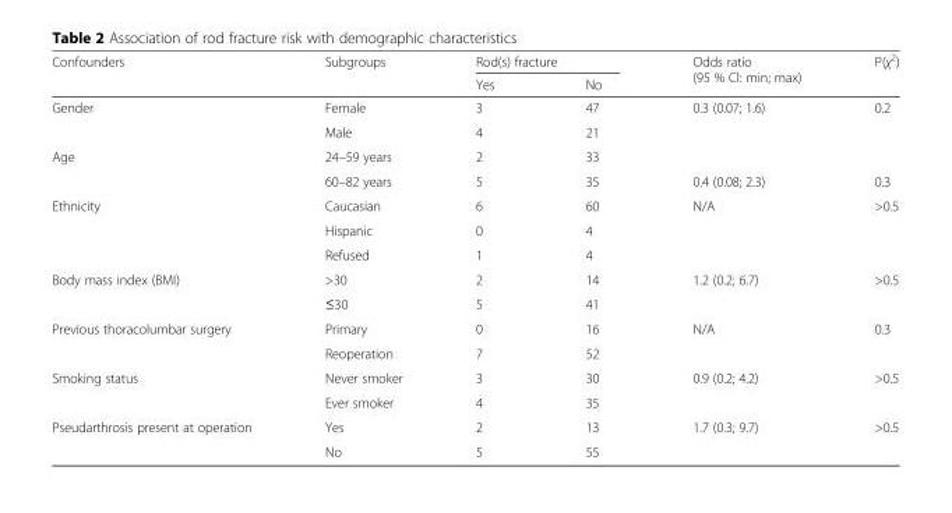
<table><thead><tr><td rowspan="2">Confounders</td><td rowspan="2">Subgroups</td><td colspan="2">Rod(s) fracture</td><td rowspan="2">Odds ratio (95 % Cl: min; max)</td><td rowspan="2">P(χ<sup>2</sup>)</td></tr><tr><td>Yes</td><td>No</td></tr></thead><tbody><tr><td rowspan="2">Gender</td><td>Female</td><td>3</td><td>47</td><td rowspan="2">0.3 (0.07; 1.6)</td><td rowspan="2">0.2</td></tr><tr><td>Male</td><td>4</td><td>21</td></tr><tr><td rowspan="2">Age</td><td>24–59 years</td><td>2</td><td>33</td><td></td><td></td></tr><tr><td>60–82 years</td><td>5</td><td>35</td><td>0.4 (0.08; 2.3)</td><td>0.3</td></tr><tr><td rowspan="3">Ethnicity</td><td>Caucasian</td><td>6</td><td>60</td><td rowspan="3">N/A</td><td rowspan="3">&gt;0.5</td></tr><tr><td>Hispanic</td><td>0</td><td>4</td></tr><tr><td>Refused</td><td>1</td><td>4</td></tr><tr><td rowspan="2">Body mass index (BMI)</td><td>&gt;30</td><td>2</td><td>14</td><td rowspan="2">1.2 (0.2; 6.7)</td><td rowspan="2">&gt;0.5</td></tr><tr><td>≤30</td><td>5</td><td>41</td></tr><tr><td rowspan="2">Previous thoracolumbar surgery</td><td>Primary</td><td>0</td><td>16</td><td rowspan="2">N/A</td><td rowspan="2">0.3</td></tr><tr><td>Reoperation</td><td>7</td><td>52</td></tr><tr><td rowspan="2">Smoking status</td><td>Never smoker</td><td>3</td><td>30</td><td rowspan="2">0.9 (0.2; 4.2)</td><td rowspan="2">&gt;0.5</td></tr><tr><td>Ever smoker</td><td>4</td><td>35</td></tr><tr><td rowspan="2">Pseudarthrosis present at operation</td><td>Yes</td><td>2</td><td>13</td><td rowspan="2">1.7 (0.3; 9.7)</td><td rowspan="2">&gt;0.5</td></tr><tr><td>No</td><td>5</td><td>55</td></tr></tbody></table>